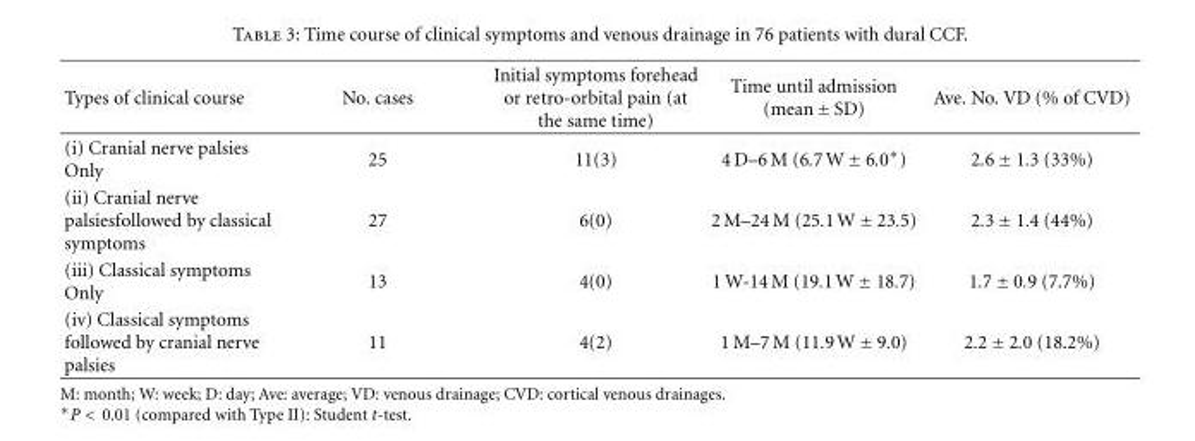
<table><thead><tr><td>Types of clinical course</td><td>No. cases</td><td>Initial symptoms forehead or retro-orbital pain (at the same time)</td><td>Time until admission (mean ± SD)</td><td>Ave. No. VD (% of CVD)</td></tr></thead><tbody><tr><td>(i) Cranial nerve palsies Only</td><td>25</td><td>11(3)</td><td>4 D–6 M (6.7W ± 6.0∗)</td><td>2.6 ± 1.3 (33%)</td></tr><tr><td>(ii) Cranial nerve palsiesfollowed by classical symptoms</td><td>27</td><td>6(0)</td><td>2 M–24 M (25.1W ± 23.5)</td><td>2.3 ± 1.4 (44%)</td></tr><tr><td>(iii) Classical symptoms Only</td><td>13</td><td>4(0)</td><td>1 W-14 M (19.1W ± 18.7)</td><td>1.7 ± 0.9 (7.7%)</td></tr><tr><td>(iv) Classical symptoms followed by cranial nerve palsies</td><td>11</td><td>4(2)</td><td>1 M–7 M (11.9W ± 9.0)</td><td>2.2 ± 2.0 (18.2%)</td></tr></tbody></table>